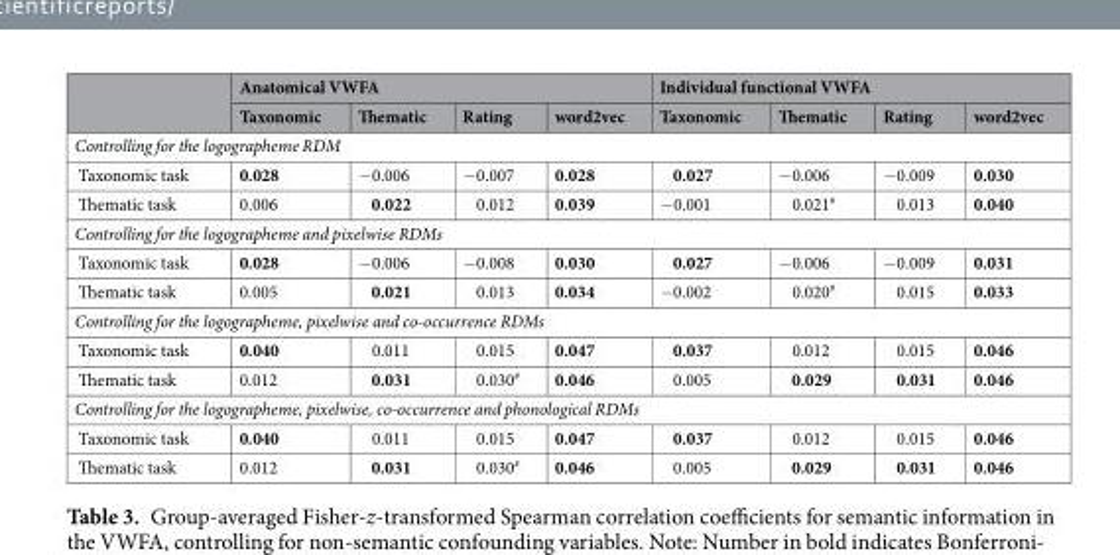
<table><thead><tr><td rowspan="2"></td><td colspan="4">Anatomical VWFA</td><td colspan="4">Individual functional VWFA</td></tr><tr><td>Taxonomic</td><td>Thematic</td><td>Rating</td><td>word2vec</td><td>Taxonomic</td><td>Thematic</td><td>Rating</td><td>word2vec</td></tr></thead><tbody><tr><td colspan="9">Controlling for the logographeme RDM</td></tr><tr><td>Taxonomic task</td><td>0.028</td><td>−0.006</td><td>−0.007</td><td>0.028</td><td>0.027</td><td>−0.006</td><td>−0.009</td><td>0.030</td></tr><tr><td>Thematic task</td><td>0.006</td><td>0.022</td><td>0.012</td><td>0.039</td><td>−0.001</td><td>0.021<sup>#</sup></td><td>0.013</td><td>0.040</td></tr><tr><td colspan="9">Controlling for the logographeme and pixelwise RDMs</td></tr><tr><td>Taxonomic task</td><td>0.028</td><td>−0.006</td><td>−0.008</td><td>0.030</td><td>0.027</td><td>−0.006</td><td>−0.009</td><td>0.031</td></tr><tr><td>Thematic task</td><td>0.005</td><td>0.021</td><td>0.013</td><td>0.034</td><td>−0.002</td><td>0.020<sup>#</sup></td><td>0.015</td><td>0.033</td></tr><tr><td colspan="9">Controlling for the logographeme, pixelwise and co-occurrence RDMs</td></tr><tr><td>Taxonomic task</td><td>0.040</td><td>0.011</td><td>0.015</td><td>0.047</td><td>0.037</td><td>0.012</td><td>0.015</td><td>0.046</td></tr><tr><td>Thematic task</td><td>0.012</td><td>0.031</td><td>0.030<sup>#</sup></td><td>0.046</td><td>0.005</td><td>0.029</td><td>0.031</td><td>0.046</td></tr><tr><td colspan="9">Controlling for the logographeme, pixelwise, co-occurrence and phonological RDMs</td></tr><tr><td>Taxonomic task</td><td>0.040</td><td>0.011</td><td>0.015</td><td>0.047</td><td>0.037</td><td>0.012</td><td>0.015</td><td>0.046</td></tr><tr><td>Thematic task</td><td>0.012</td><td>0.031</td><td>0.030<sup>#</sup></td><td>0.046</td><td>0.005</td><td>0.029</td><td>0.031</td><td>0.046</td></tr></tbody></table>